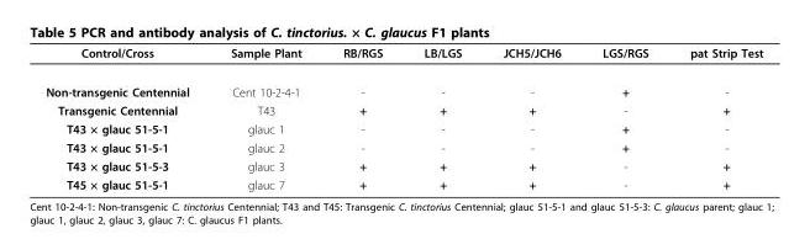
<table><thead><tr><td>Control/Cross</td><td>Sample Plant</td><td>RB/RGS</td><td>LB/LGS</td><td>JCH5/JCH6</td><td>LGS/RGS</td><td>pat Strip Test</td></tr></thead><tbody><tr><td>Non-transgenic Centennial</td><td>Cent 10-2-4-1</td><td>-</td><td>-</td><td>-</td><td>+</td><td>-</td></tr><tr><td>Transgenic Centennial</td><td>T43</td><td>+</td><td>+</td><td>+</td><td>-</td><td>+</td></tr><tr><td>T43 × glauc 51-5-1</td><td>glauc 1</td><td>-</td><td>-</td><td>-</td><td>+</td><td>-</td></tr><tr><td>T43 × glauc 51-5-1</td><td>glauc 2</td><td>-</td><td>-</td><td>-</td><td>+</td><td>-</td></tr><tr><td>T43 × glauc 51-5-3</td><td>glauc 3</td><td>+</td><td>+</td><td>+</td><td>-</td><td>+</td></tr><tr><td>T45 × glauc 51-5-1</td><td>glauc 7</td><td>+</td><td>+</td><td>+</td><td>-</td><td>+</td></tr></tbody></table>